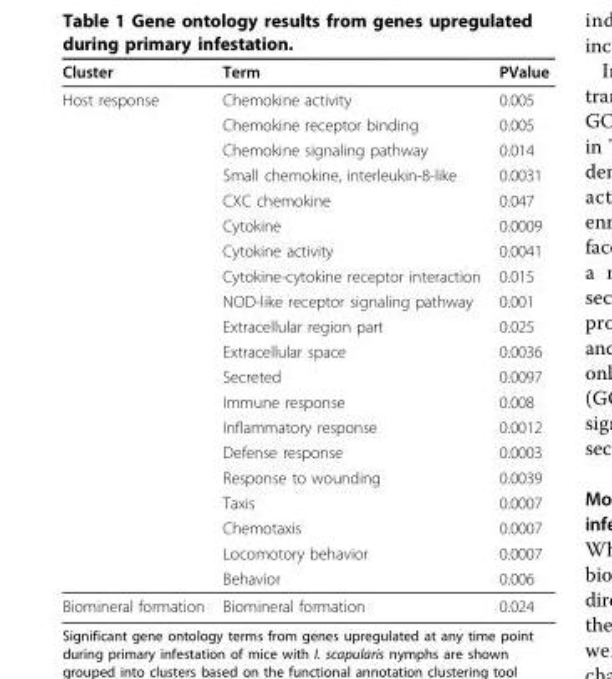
<table><thead><tr><td>Cluster</td><td>Term</td><td>PValue</td></tr></thead><tbody><tr><td rowspan="20">Host response</td><td>Chemokine activity</td><td>0.005</td></tr><tr><td>Chemokine receptor binding</td><td>0.005</td></tr><tr><td>Chemokine signaling pathway</td><td>0.014</td></tr><tr><td>Small chemokine, interleukin-8-like</td><td>0.0031</td></tr><tr><td>CXC chemokine</td><td>0.047</td></tr><tr><td>Cytokine</td><td>0.0009</td></tr><tr><td>Cytokine activity</td><td>0.0041</td></tr><tr><td>Cytokine-cytokine receptor interaction</td><td>0.015</td></tr><tr><td>NOD-like receptor signaling pathway</td><td>0.001</td></tr><tr><td>Extracellular region part</td><td>0.025</td></tr><tr><td>Extracellular space</td><td>0.0036</td></tr><tr><td>Secreted</td><td>0.0097</td></tr><tr><td>Immune response</td><td>0.008</td></tr><tr><td>Inflammatory response</td><td>0.0012</td></tr><tr><td>Defense response</td><td>0.0003</td></tr><tr><td>Response to wounding</td><td>0.0039</td></tr><tr><td>Taxis</td><td>0.0007</td></tr><tr><td>Chemotaxis</td><td>0.0007</td></tr><tr><td>Locomotory behavior</td><td>0.0007</td></tr><tr><td>Behavior</td><td>0.006</td></tr><tr><td>Biomineral formation</td><td>Biomineral formation</td><td>0.024</td></tr></tbody></table>